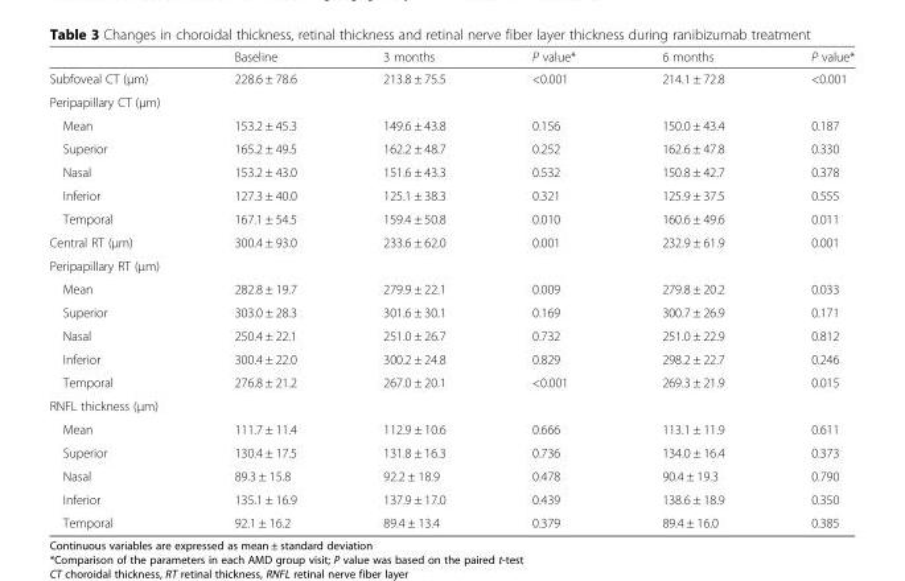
<table><thead><tr><td></td><td>Baseline</td><td>3 months</td><td>P value*</td><td>6 months</td><td>P value*</td></tr></thead><tbody><tr><td>Subfoveal CT (μm)</td><td>228.6 ± 78.6</td><td>213.8 ± 75.5</td><td>&lt;0.001</td><td>214.1 ± 72.8</td><td>&lt;0.001</td></tr><tr><td colspan="6">Peripapillary CT (μm)</td></tr><tr><td>Mean</td><td>153.2 ± 45.3</td><td>149.6 ± 43.8</td><td>0.156</td><td>150.0 ± 43.4</td><td>0.187</td></tr><tr><td>Superior</td><td>165.2 ± 49.5</td><td>162.2 ± 48.7</td><td>0.252</td><td>162.6 ± 47.8</td><td>0.330</td></tr><tr><td>Nasal</td><td>153.2 ± 43.0</td><td>151.6 ± 43.3</td><td>0.532</td><td>150.8 ± 42.7</td><td>0.378</td></tr><tr><td>Inferior</td><td>127.3 ± 40.0</td><td>125.1 ± 38.3</td><td>0.321</td><td>125.9 ± 37.5</td><td>0.555</td></tr><tr><td>Temporal</td><td>167.1 ± 54.5</td><td>159.4 ± 50.8</td><td>0.010</td><td>160.6 ± 49.6</td><td>0.011</td></tr><tr><td>Central RT (μm)</td><td>300.4 ± 93.0</td><td>233.6 ± 62.0</td><td>0.001</td><td>232.9 ± 61.9</td><td>0.001</td></tr><tr><td colspan="6">Peripapillary RT (μm)</td></tr><tr><td>Mean</td><td>282.8 ± 19.7</td><td>279.9 ± 22.1</td><td>0.009</td><td>279.8 ± 20.2</td><td>0.033</td></tr><tr><td>Superior</td><td>303.0 ± 28.3</td><td>301.6 ± 30.1</td><td>0.169</td><td>300.7 ± 26.9</td><td>0.171</td></tr><tr><td>Nasal</td><td>250.4 ± 22.1</td><td>251.0 ± 26.7</td><td>0.732</td><td>251.0 ± 22.9</td><td>0.812</td></tr><tr><td>Inferior</td><td>300.4 ± 22.0</td><td>300.2 ± 24.8</td><td>0.829</td><td>298.2 ± 22.7</td><td>0.246</td></tr><tr><td>Temporal</td><td>276.8 ± 21.2</td><td>267.0 ± 20.1</td><td>&lt;0.001</td><td>269.3 ± 21.9</td><td>0.015</td></tr><tr><td colspan="6">RNFL thickness (μm)</td></tr><tr><td>Mean</td><td>111.7 ± 11.4</td><td>112.9 ± 10.6</td><td>0.666</td><td>113.1 ± 11.9</td><td>0.611</td></tr><tr><td>Superior</td><td>130.4 ± 17.5</td><td>131.8 ± 16.3</td><td>0.736</td><td>134.0 ± 16.4</td><td>0.373</td></tr><tr><td>Nasal</td><td>89.3 ± 15.8</td><td>92.2 ± 18.9</td><td>0.478</td><td>90.4 ± 19.3</td><td>0.790</td></tr><tr><td>Inferior</td><td>135.1 ± 16.9</td><td>137.9 ± 17.0</td><td>0.439</td><td>138.6 ± 18.9</td><td>0.350</td></tr><tr><td>Temporal</td><td>92.1 ± 16.2</td><td>89.4 ± 13.4</td><td>0.379</td><td>89.4 ± 16.0</td><td>0.385</td></tr></tbody></table>